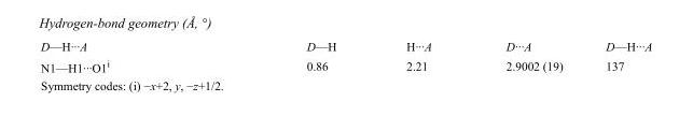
<table><tbody><tr><td>D—H···A</td><td>D—H</td><td>H···A</td><td>D···A</td><td>D—H···A</td></tr><tr><td>N1—H1···O1<sup>i</sup></td><td>0.86</td><td>2.21</td><td>2.9002 (19)</td><td>137</td></tr></tbody></table>